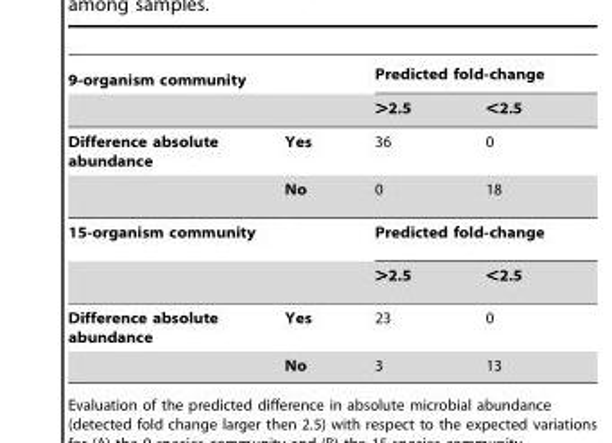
<table><thead><tr><td rowspan="2">9-organism community</td><td rowspan="2"></td><td colspan="2">Predicted fold-change</td></tr><tr><td>&gt;2.5</td><td>&lt;2.5</td></tr></thead><tbody><tr><td rowspan="2">Difference absolute abundance</td><td>Yes</td><td>36</td><td>0</td></tr><tr><td>No</td><td>0</td><td>18</td></tr><tr><td rowspan="2">15-organism community</td><td></td><td colspan="2">Predicted fold-change</td></tr><tr><td></td><td>&gt;2.5</td><td>&lt;2.5</td></tr><tr><td rowspan="2">Difference absolute abundance</td><td>Yes</td><td>23</td><td>0</td></tr><tr><td>No</td><td>3</td><td>13</td></tr></tbody></table>